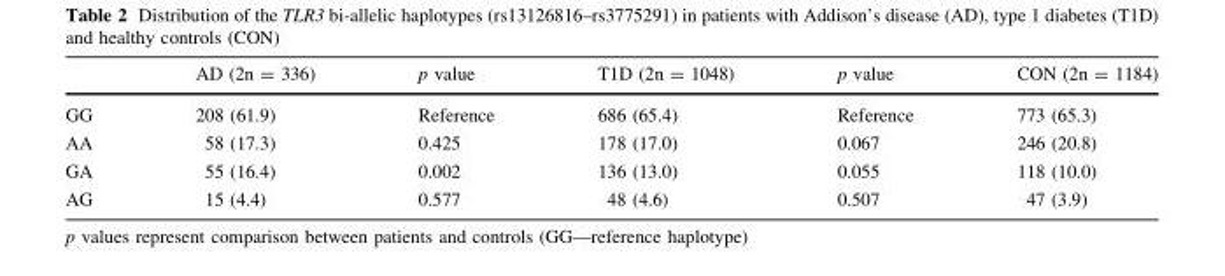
<table><thead><tr><td></td><td>AD (2n = 336)</td><td>p value</td><td>T1D (2n = 1048)</td><td>p value</td><td>CON (2n = 1184)</td></tr></thead><tbody><tr><td>GG</td><td>208 (61.9)</td><td>Reference</td><td>686 (65.4)</td><td>Reference</td><td>773 (65.3)</td></tr><tr><td>AA</td><td>58 (17.3)</td><td>0.425</td><td>178 (17.0)</td><td>0.067</td><td>246 (20.8)</td></tr><tr><td>GA</td><td>55 (16.4)</td><td>0.002</td><td>136 (13.0)</td><td>0.055</td><td>118 (10.0)</td></tr><tr><td>AG</td><td>15 (4.4)</td><td>0.577</td><td>48 (4.6)</td><td>0.507</td><td>47 (3.9)</td></tr></tbody></table>